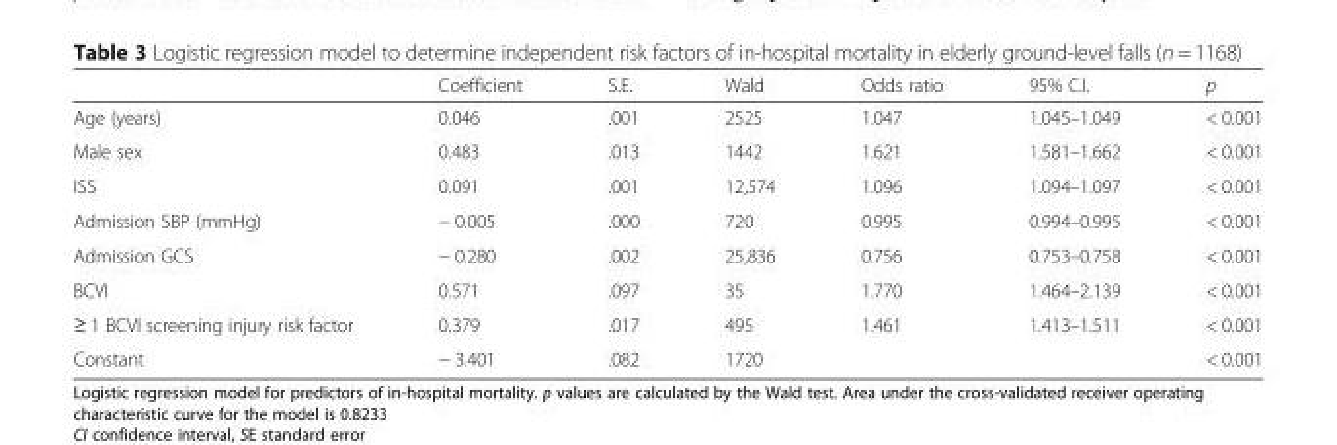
<table><thead><tr><td></td><td>Coefficient</td><td>S.E.</td><td>Wald</td><td>Odds ratio</td><td>95% C.I.</td><td>p</td></tr></thead><tbody><tr><td>Age (years)</td><td>0.046</td><td>.001</td><td>2525</td><td>1.047</td><td>1.045–1.049</td><td>&lt; 0.001</td></tr><tr><td>Male sex</td><td>0.483</td><td>.013</td><td>1442</td><td>1.621</td><td>1.581–1.662</td><td>&lt; 0.001</td></tr><tr><td>ISS</td><td>0.091</td><td>.001</td><td>12,574</td><td>1.096</td><td>1.094–1.097</td><td>&lt; 0.001</td></tr><tr><td>Admission SBP (mmHg)</td><td>− 0.005</td><td>.000</td><td>720</td><td>0.995</td><td>0.994–0.995</td><td>&lt; 0.001</td></tr><tr><td>Admission GCS</td><td>− 0.280</td><td>.002</td><td>25,836</td><td>0.756</td><td>0.753–0.758</td><td>&lt; 0.001</td></tr><tr><td>BCVI</td><td>0.571</td><td>.097</td><td>35</td><td>1.770</td><td>1.464–2.139</td><td>&lt; 0.001</td></tr><tr><td>≥ 1 BCVI screening injury risk factor</td><td>0.379</td><td>.017</td><td>495</td><td>1.461</td><td>1.413–1.511</td><td>&lt; 0.001</td></tr><tr><td>Constant</td><td>− 3.401</td><td>.082</td><td>1720</td><td></td><td></td><td>&lt; 0.001</td></tr></tbody></table>